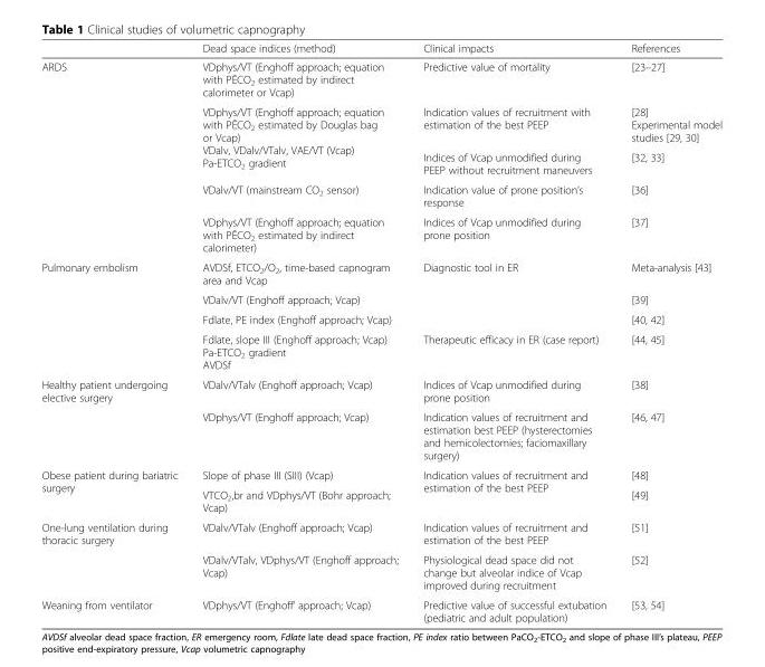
<table><thead><tr><td></td><td>Dead space indices (method)</td><td>Clinical impacts</td><td>References</td></tr></thead><tbody><tr><td rowspan="5">ARDS</td><td>VDphys/VT (Enghoff approach; equation with PĒCO<sub>2</sub> estimated by indirect calorimeter or Vcap)</td><td>Predictive value of mortality</td><td>[23–27]</td></tr><tr><td rowspan="2">VDphys/VT (Enghoff approach; equation with PĒCO<sub>2</sub> estimated by Douglas bag or Vcap) VDalv, VDalv/VTalv, VAE/VT (Vcap) Pa-ETCO<sub>2</sub> gradient</td><td>Indication values of recruitment with estimation of the best PEEP</td><td>[28] Experimental model studies [29, 30]</td></tr><tr><td>Indices of Vcap unmodified during PEEP without recruitment maneuvers</td><td>[32, 33]</td></tr><tr><td>VDalv/VT (mainstream CO<sub>2</sub> sensor)</td><td>Indication value of prone position’s response</td><td>[36]</td></tr><tr><td>VDphys/VT (Enghoff approach; equation with PĒCO<sub>2</sub> estimated by indirect calorimeter)</td><td>Indices of Vcap unmodified during prone position</td><td>[37]</td></tr><tr><td rowspan="4">Pulmonary embolism</td><td>AVDSf, ETCO<sub>2</sub>/O<sub>2</sub>, time-based capnogram area and Vcap</td><td rowspan="3">Diagnostic tool in ER</td><td>Meta-analysis [43]</td></tr><tr><td>VDalv/VT (Enghoff approach; Vcap)</td><td>[39]</td></tr><tr><td>Fdlate, PE index (Enghoff approach; Vcap)</td><td>[40, 42]</td></tr><tr><td>Fdlate, slope III (Enghoff approach; Vcap) Pa-ETCO<sub>2</sub> gradient AVDSf</td><td>Therapeutic efficacy in ER (case report)</td><td>[44, 45]</td></tr><tr><td rowspan="2">Healthy patient undergoing elective surgery</td><td>VDalv/VTalv (Enghoff approach; Vcap)</td><td>Indices of Vcap unmodified during prone position</td><td>[38]</td></tr><tr><td>VDphys/VT (Enghoff approach; Vcap)</td><td>Indication values of recruitment and estimation best PEEP (hysterectomies and hemicolectomies; faciomaxillary surgery)</td><td>[46, 47]</td></tr><tr><td rowspan="2">Obese patient during bariatric surgery</td><td>Slope of phase III (SIII) (Vcap)</td><td rowspan="2">Indication values of recruitment and estimation of the best PEEP</td><td>[48]</td></tr><tr><td>VTCO<sub>2</sub>,br and VDphys/VT (Bohr approach; Vcap)</td><td>[49]</td></tr><tr><td rowspan="2">One-lung ventilation during thoracic surgery</td><td>VDalv/VTalv (Enghoff approach; Vcap)</td><td>Indication values of recruitment and estimation of the best PEEP</td><td>[51]</td></tr><tr><td>VDalv/VTalv, VDphys/VT (Enghoff approach; Vcap)</td><td>Physiological dead space did not change but alveolar indice of Vcap improved during recruitment</td><td>[52]</td></tr><tr><td>Weaning from ventilator</td><td>VDphys/VT (Enghoff’ approach; Vcap)</td><td>Predictive value of successful extubation (pediatric and adult population)</td><td>[53, 54]</td></tr></tbody></table>